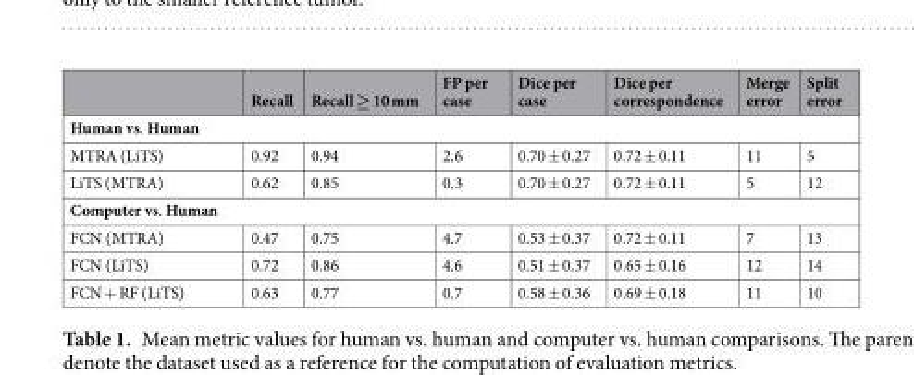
<table><thead><tr><td></td><td>Recall</td><td>Recall ≥ 10 mm</td><td>FP per case</td><td>Dice per case</td><td>Dice per correspondence</td><td>Merge error</td><td>Split error</td></tr></thead><tbody><tr><td colspan="8">Human vs. Human</td></tr><tr><td>MTRA (LiTS)</td><td>0.92</td><td>0.94</td><td>2.6</td><td>0.70 ± 0.27</td><td>0.72 ± 0.11</td><td>11</td><td>5</td></tr><tr><td>LiTS (MTRA)</td><td>0.62</td><td>0.85</td><td>0.3</td><td>0.70 ± 0.27</td><td>0.72 ± 0.11</td><td>5</td><td>12</td></tr><tr><td colspan="8">Computer vs. Human</td></tr><tr><td>FCN (MTRA)</td><td>0.47</td><td>0.75</td><td>4.7</td><td>0.53 ± 0.37</td><td>0.72 ± 0.11</td><td>7</td><td>13</td></tr><tr><td>FCN (LiTS)</td><td>0.72</td><td>0.86</td><td>4.6</td><td>0.51 ± 0.37</td><td>0.65 ± 0.16</td><td>12</td><td>14</td></tr><tr><td>FCN + RF (LiTS)</td><td>0.63</td><td>0.77</td><td>0.7</td><td>0.58 ± 0.36</td><td>0.69 ± 0.18</td><td>11</td><td>10</td></tr></tbody></table>